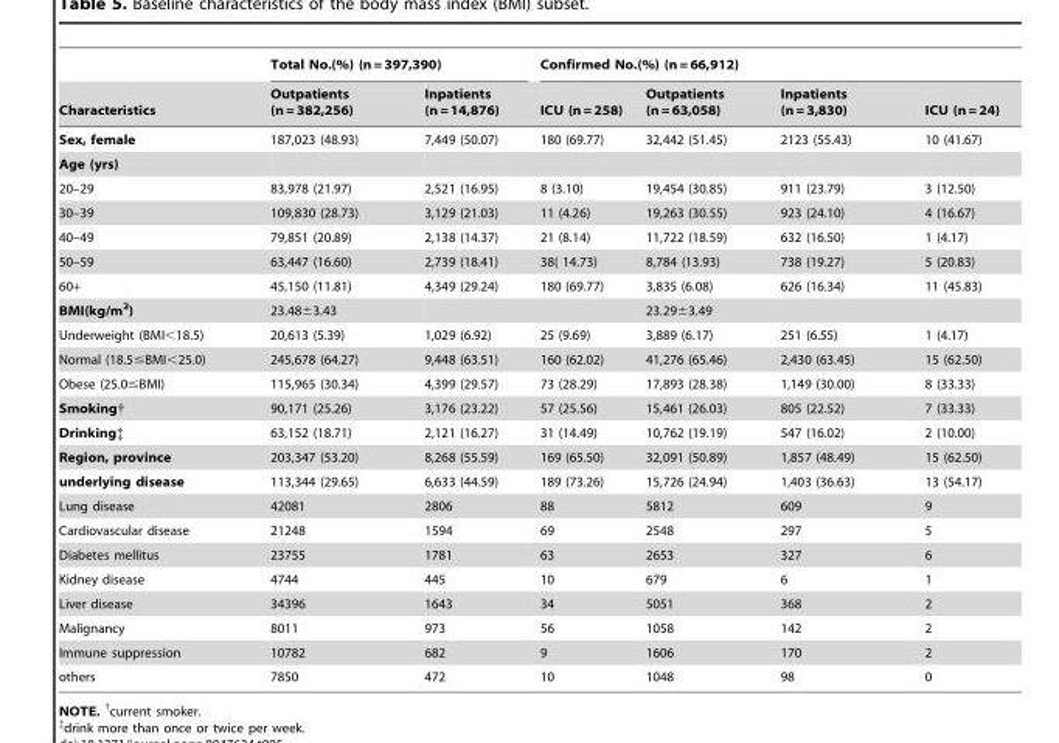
<table><thead><tr><td rowspan="2">Characteristics</td><td colspan="2">Total No.(%) (n = 397,390)</td><td colspan="4">Confirmed No.(%) (n = 66,912)</td></tr><tr><td>Outpatients (n = 382,256)</td><td>Inpatients (n = 14,876)</td><td>ICU (n = 258)</td><td>Outpatients (n = 63,058)</td><td>Inpatients (n = 3,830)</td><td>ICU (n = 24)</td></tr></thead><tbody><tr><td>Sex, female</td><td>187,023 (48.93)</td><td>7,449 (50.07)</td><td>180 (69.77)</td><td>32,442 (51.45)</td><td>2123 (55.43)</td><td>10 (41.67)</td></tr><tr><td colspan="7">Age (yrs)</td></tr><tr><td>20–29</td><td>83,978 (21.97)</td><td>2,521 (16.95)</td><td>8 (3.10)</td><td>19,454 (30.85)</td><td>911 (23.79)</td><td>3 (12.50)</td></tr><tr><td>30–39</td><td>109,830 (28.73)</td><td>3,129 (21.03)</td><td>11 (4.26)</td><td>19,263 (30.55)</td><td>923 (24.10)</td><td>4 (16.67)</td></tr><tr><td>40–49</td><td>79,851 (20.89)</td><td>2,138 (14.37)</td><td>21 (8.14)</td><td>11,722 (18.59)</td><td>632 (16.50)</td><td>1 (4.17)</td></tr><tr><td>50–59</td><td>63,447 (16.60)</td><td>2,739 (18.41)</td><td>38( 14.73)</td><td>8,784 (13.93)</td><td>738 (19.27)</td><td>5 (20.83)</td></tr><tr><td>60+</td><td>45,150 (11.81)</td><td>4,349 (29.24)</td><td>180 (69.77)</td><td>3,835 (6.08)</td><td>626 (16.34)</td><td>11 (45.83)</td></tr><tr><td>BMI(kg/m<sup>2</sup>)</td><td>23.48±3.43</td><td></td><td></td><td>23.29±3.49</td><td></td><td></td></tr><tr><td>Underweight (BMI&lt;18.5)</td><td>20,613 (5.39)</td><td>1,029 (6.92)</td><td>25 (9.69)</td><td>3,889 (6.17)</td><td>251 (6.55)</td><td>1 (4.17)</td></tr><tr><td>Normal (18.5≤BMI&lt;25.0)</td><td>245,678 (64.27)</td><td>9,448 (63.51)</td><td>160 (62.02)</td><td>41,276 (65.46)</td><td>2,430 (63.45)</td><td>15 (62.50)</td></tr><tr><td>Obese (25.0≤BMI)</td><td>115,965 (30.34)</td><td>4,399 (29.57)</td><td>73 (28.29)</td><td>17,893 (28.38)</td><td>1,149 (30.00)</td><td>8 (33.33)</td></tr><tr><td>Smoking†</td><td>90,171 (25.26)</td><td>3,176 (23.22)</td><td>57 (25.56)</td><td>15,461 (26.03)</td><td>805 (22.52)</td><td>7 (33.33)</td></tr><tr><td>Drinking‡</td><td>63,152 (18.71)</td><td>2,121 (16.27)</td><td>31 (14.49)</td><td>10,762 (19.19)</td><td>547 (16.02)</td><td>2 (10.00)</td></tr><tr><td>Region, province</td><td>203,347 (53.20)</td><td>8,268 (55.59)</td><td>169 (65.50)</td><td>32,091 (50.89)</td><td>1,857 (48.49)</td><td>15 (62.50)</td></tr><tr><td>underlying disease</td><td>113,344 (29.65)</td><td>6,633 (44.59)</td><td>189 (73.26)</td><td>15,726 (24.94)</td><td>1,403 (36.63)</td><td>13 (54.17)</td></tr><tr><td>Lung disease</td><td>42081</td><td>2806</td><td>88</td><td>5812</td><td>609</td><td>9</td></tr><tr><td>Cardiovascular disease</td><td>21248</td><td>1594</td><td>69</td><td>2548</td><td>297</td><td>5</td></tr><tr><td>Diabetes mellitus</td><td>23755</td><td>1781</td><td>63</td><td>2653</td><td>327</td><td>6</td></tr><tr><td>Kidney disease</td><td>4744</td><td>445</td><td>10</td><td>679</td><td>6</td><td>1</td></tr><tr><td>Liver disease</td><td>34396</td><td>1643</td><td>34</td><td>5051</td><td>368</td><td>2</td></tr><tr><td>Malignancy</td><td>8011</td><td>973</td><td>56</td><td>1058</td><td>142</td><td>2</td></tr><tr><td>Immune suppression</td><td>10782</td><td>682</td><td>9</td><td>1606</td><td>170</td><td>2</td></tr><tr><td>others</td><td>7850</td><td>472</td><td>10</td><td>1048</td><td>98</td><td>0</td></tr></tbody></table>